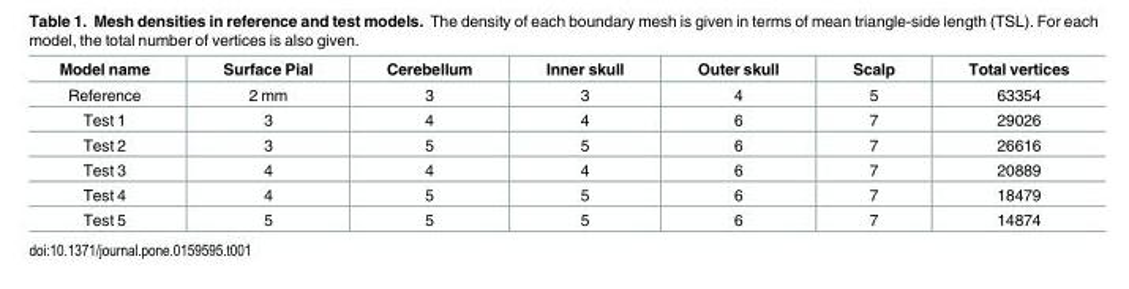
<table><thead><tr><td>Model name</td><td>Surface Pial</td><td>Cerebellum</td><td>Inner skull</td><td>Outer skull</td><td>Scalp</td><td>Total vertices</td></tr></thead><tbody><tr><td>Reference</td><td>2 mm</td><td>3</td><td>3</td><td>4</td><td>5</td><td>63354</td></tr><tr><td>Test 1</td><td>3</td><td>4</td><td>4</td><td>6</td><td>7</td><td>29026</td></tr><tr><td>Test 2</td><td>3</td><td>5</td><td>5</td><td>6</td><td>7</td><td>26616</td></tr><tr><td>Test 3</td><td>4</td><td>4</td><td>4</td><td>6</td><td>7</td><td>20889</td></tr><tr><td>Test 4</td><td>4</td><td>5</td><td>5</td><td>6</td><td>7</td><td>18479</td></tr><tr><td>Test 5</td><td>5</td><td>5</td><td>5</td><td>6</td><td>7</td><td>14874</td></tr></tbody></table>